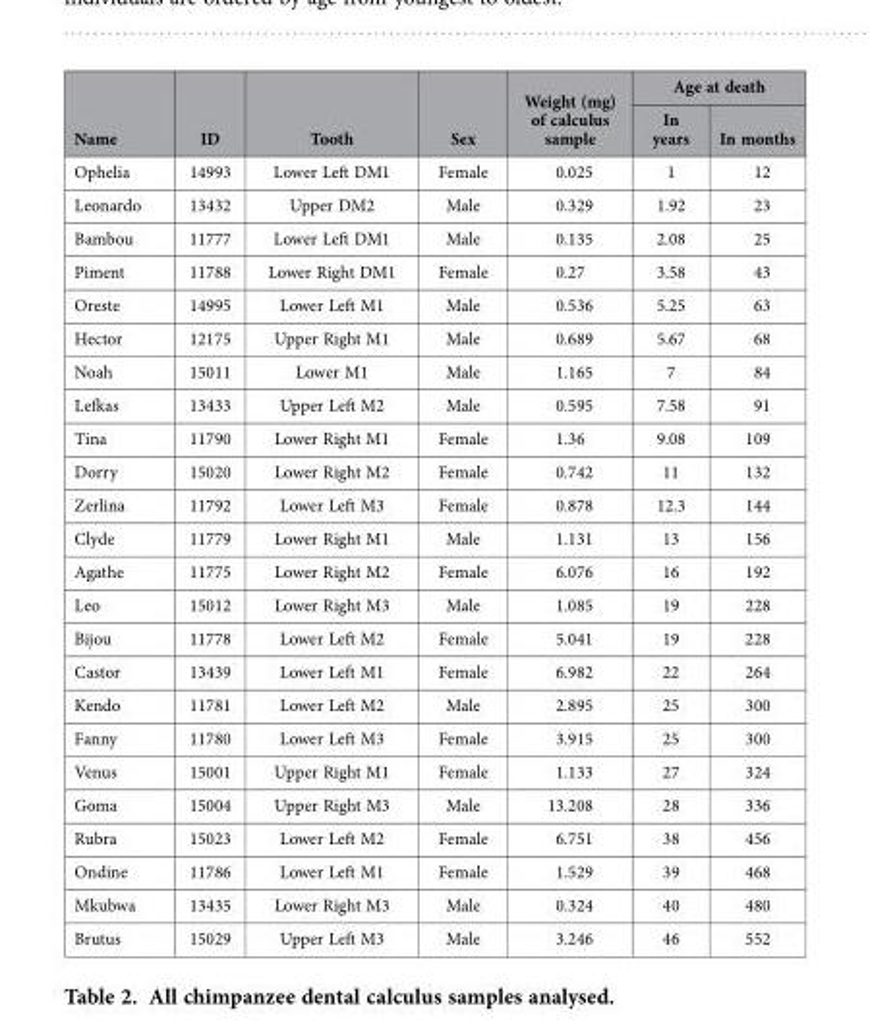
<table><thead><tr><td rowspan="2">Name</td><td rowspan="2">ID</td><td rowspan="2">Tooth</td><td rowspan="2">Sex</td><td rowspan="2">Weight (mg) of calculus sample</td><td colspan="2">Age at death</td></tr><tr><td>In years</td><td>In months</td></tr></thead><tbody><tr><td>Ophelia</td><td>14993</td><td>Lower Left DM1</td><td>Female</td><td>0.025</td><td>1</td><td>12</td></tr><tr><td>Leonardo</td><td>13432</td><td>Upper DM2</td><td>Male</td><td>0.329</td><td>1.92</td><td>23</td></tr><tr><td>Bambou</td><td>11777</td><td>Lower Left DM1</td><td>Male</td><td>0.135</td><td>2.08</td><td>25</td></tr><tr><td>Piment</td><td>11788</td><td>Lower Right DM1</td><td>Female</td><td>0.27</td><td>3.58</td><td>43</td></tr><tr><td>Oreste</td><td>14995</td><td>Lower Left M1</td><td>Male</td><td>0.536</td><td>5.25</td><td>63</td></tr><tr><td>Hector</td><td>12175</td><td>Upper Right M1</td><td>Male</td><td>0.689</td><td>5.67</td><td>68</td></tr><tr><td>Noah</td><td>15011</td><td>Lower M1</td><td>Male</td><td>1.165</td><td>7</td><td>84</td></tr><tr><td>Lefkas</td><td>13433</td><td>Upper Left M2</td><td>Male</td><td>0.595</td><td>7.58</td><td>91</td></tr><tr><td>Tina</td><td>11790</td><td>Lower Right M1</td><td>Female</td><td>1.36</td><td>9.08</td><td>109</td></tr><tr><td>Dorry</td><td>15020</td><td>Lower Right M2</td><td>Female</td><td>0.742</td><td>11</td><td>132</td></tr><tr><td>Zerlina</td><td>11792</td><td>Lower Left M3</td><td>Female</td><td>0.878</td><td>12.3</td><td>144</td></tr><tr><td>Clyde</td><td>11779</td><td>Lower Right M1</td><td>Male</td><td>1.131</td><td>13</td><td>156</td></tr><tr><td>Agathe</td><td>11775</td><td>Lower Right M2</td><td>Female</td><td>6.076</td><td>16</td><td>192</td></tr><tr><td>Leo</td><td>15012</td><td>Lower Right M3</td><td>Male</td><td>1.085</td><td>19</td><td>228</td></tr><tr><td>Bijou</td><td>11778</td><td>Lower Left M2</td><td>Female</td><td>5.041</td><td>19</td><td>228</td></tr><tr><td>Castor</td><td>13439</td><td>Lower Left M1</td><td>Female</td><td>6.982</td><td>22</td><td>264</td></tr><tr><td>Kendo</td><td>11781</td><td>Lower Left M2</td><td>Male</td><td>2.895</td><td>25</td><td>300</td></tr><tr><td>Fanny</td><td>11780</td><td>Lower Left M3</td><td>Female</td><td>3.915</td><td>25</td><td>300</td></tr><tr><td>Venus</td><td>15001</td><td>Upper Right M1</td><td>Female</td><td>1.133</td><td>27</td><td>324</td></tr><tr><td>Goma</td><td>15004</td><td>Upper Right M3</td><td>Male</td><td>13.208</td><td>28</td><td>336</td></tr><tr><td>Rubra</td><td>15023</td><td>Lower Left M2</td><td>Female</td><td>6.751</td><td>38</td><td>456</td></tr><tr><td>Ondine</td><td>11786</td><td>Lower Left M1</td><td>Female</td><td>1.529</td><td>39</td><td>468</td></tr><tr><td>Mkubwa</td><td>13435</td><td>Lower Right M3</td><td>Male</td><td>0.324</td><td>40</td><td>480</td></tr><tr><td>Brutus</td><td>15029</td><td>Upper Left M3</td><td>Male</td><td>3.246</td><td>46</td><td>552</td></tr></tbody></table>